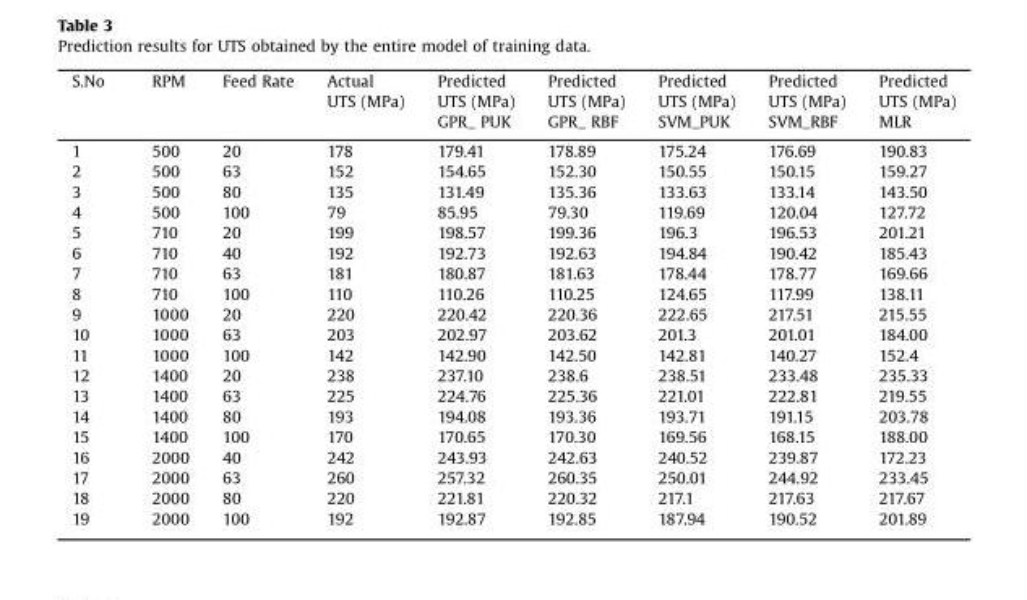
<table><thead><tr><td>S.No</td><td>RPM</td><td>Feed Rate</td><td>Actual UTS (MPa)</td><td>Predicted UTS (MPa) GPR_ PUK</td><td>Predicted UTS (MPa) GPR_ RBF</td><td>Predicted UTS (MPa) SVM_PUK</td><td>Predicted UTS (MPa) SVM_RBF</td><td>Predicted UTS (MPa) MLR</td></tr></thead><tbody><tr><td>1</td><td>500</td><td>20</td><td>178</td><td>179.41</td><td>178.89</td><td>175.24</td><td>176.69</td><td>190.83</td></tr><tr><td>2</td><td>500</td><td>63</td><td>152</td><td>154.65</td><td>152.30</td><td>150.55</td><td>150.15</td><td>159.27</td></tr><tr><td>3</td><td>500</td><td>80</td><td>135</td><td>131.49</td><td>135.36</td><td>133.63</td><td>133.14</td><td>143.50</td></tr><tr><td>4</td><td>500</td><td>100</td><td>79</td><td>85.95</td><td>79.30</td><td>119.69</td><td>120.04</td><td>127.72</td></tr><tr><td>5</td><td>710</td><td>20</td><td>199</td><td>198.57</td><td>199.36</td><td>196.3</td><td>196.53</td><td>201.21</td></tr><tr><td>6</td><td>710</td><td>40</td><td>192</td><td>192.73</td><td>192.63</td><td>194.84</td><td>190.42</td><td>185.43</td></tr><tr><td>7</td><td>710</td><td>63</td><td>181</td><td>180.87</td><td>181.63</td><td>178.44</td><td>178.77</td><td>169.66</td></tr><tr><td>8</td><td>710</td><td>100</td><td>110</td><td>110.26</td><td>110.25</td><td>124.65</td><td>117.99</td><td>138.11</td></tr><tr><td>9</td><td>1000</td><td>20</td><td>220</td><td>220.42</td><td>220.36</td><td>222.65</td><td>217.51</td><td>215.55</td></tr><tr><td>10</td><td>1000</td><td>63</td><td>203</td><td>202.97</td><td>203.62</td><td>201.3</td><td>201.01</td><td>184.00</td></tr><tr><td>11</td><td>1000</td><td>100</td><td>142</td><td>142.90</td><td>142.50</td><td>142.81</td><td>140.27</td><td>152.4</td></tr><tr><td>12</td><td>1400</td><td>20</td><td>238</td><td>237.10</td><td>238.6</td><td>238.51</td><td>233.48</td><td>235.33</td></tr><tr><td>13</td><td>1400</td><td>63</td><td>225</td><td>224.76</td><td>225.36</td><td>221.01</td><td>222.81</td><td>219.55</td></tr><tr><td>14</td><td>1400</td><td>80</td><td>193</td><td>194.08</td><td>193.36</td><td>193.71</td><td>191.15</td><td>203.78</td></tr><tr><td>15</td><td>1400</td><td>100</td><td>170</td><td>170.65</td><td>170.30</td><td>169.56</td><td>168.15</td><td>188.00</td></tr><tr><td>16</td><td>2000</td><td>40</td><td>242</td><td>243.93</td><td>242.63</td><td>240.52</td><td>239.87</td><td>172.23</td></tr><tr><td>17</td><td>2000</td><td>63</td><td>260</td><td>257.32</td><td>260.35</td><td>250.01</td><td>244.92</td><td>233.45</td></tr><tr><td>18</td><td>2000</td><td>80</td><td>220</td><td>221.81</td><td>220.32</td><td>217.1</td><td>217.63</td><td>217.67</td></tr><tr><td>19</td><td>2000</td><td>100</td><td>192</td><td>192.87</td><td>192.85</td><td>187.94</td><td>190.52</td><td>201.89</td></tr></tbody></table>